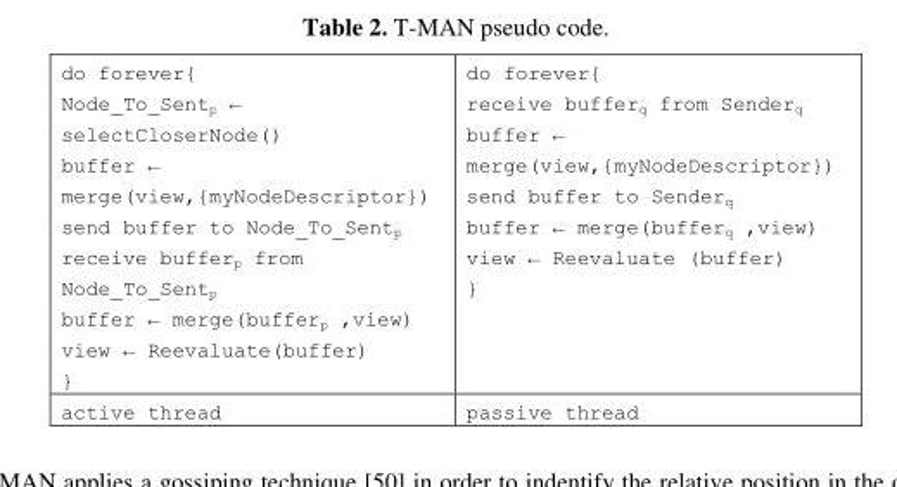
<table><tbody><tr><td>do forever{ Node_To_Sent<sub>p</sub> ← selectCloserNode() buffer ← merge(view,{myNodeDescriptor}) send buffer to Node_To_Sent<sub>p</sub> receive buffer<sub>p</sub> from Node_To_Sent<sub>p</sub> buffer ← merge(buffer<sub>p</sub> ,view) view ← Reevaluate(buffer) }</td><td>do forever{ receive buffer<sub>q</sub> from Sender<sub>q</sub> buffer ← merge(view,{myNodeDescriptor}) send buffer to Sender<sub>q</sub> buffer ← merge(buffer<sub>q</sub> ,view) view ← Reevaluate (buffer) }</td></tr><tr><td>active thread</td><td>passive thread</td></tr></tbody></table>